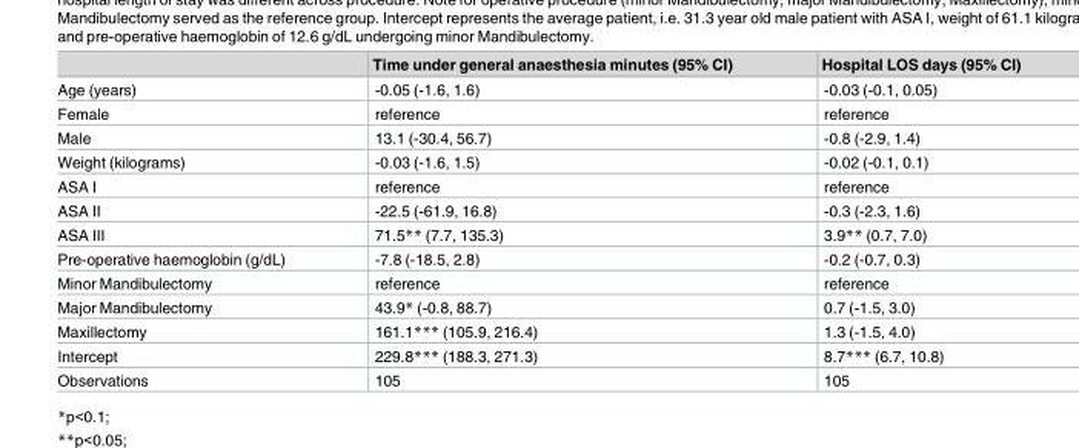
<table><thead><tr><td></td><td>Time under general anaesthesia minutes (95% CI)</td><td>Hospital LOS days (95% CI)</td></tr></thead><tbody><tr><td>Age (years)</td><td>-0.05 (-1.6, 1.6)</td><td>-0.03 (-0.1, 0.05)</td></tr><tr><td>Female</td><td>reference</td><td>reference</td></tr><tr><td>Male</td><td>13.1 (-30.4, 56.7)</td><td>-0.8 (-2.9, 1.4)</td></tr><tr><td>Weight (kilograms)</td><td>-0.03 (-1.6, 1.5)</td><td>-0.02 (-0.1, 0.1)</td></tr><tr><td>ASA I</td><td>reference</td><td>reference</td></tr><tr><td>ASA II</td><td>-22.5 (-61.9, 16.8)</td><td>-0.3 (-2.3, 1.6)</td></tr><tr><td>ASA III</td><td>71.5** (7.7, 135.3)</td><td>3.9** (0.7, 7.0)</td></tr><tr><td>Pre-operative haemoglobin (g/dL)</td><td>-7.8 (-18.5, 2.8)</td><td>-0.2 (-0.7, 0.3)</td></tr><tr><td>Minor Mandibulectomy</td><td>reference</td><td>reference</td></tr><tr><td>Major Mandibulectomy</td><td>43.9* (-0.8, 88.7)</td><td>0.7 (-1.5, 3.0)</td></tr><tr><td>Maxillectomy</td><td>161.1*** (105.9, 216.4)</td><td>1.3 (-1.5, 4.0)</td></tr><tr><td>Intercept</td><td>229.8*** (188.3, 271.3)</td><td>8.7*** (6.7, 10.8)</td></tr><tr><td>Observations</td><td>105</td><td>105</td></tr></tbody></table>